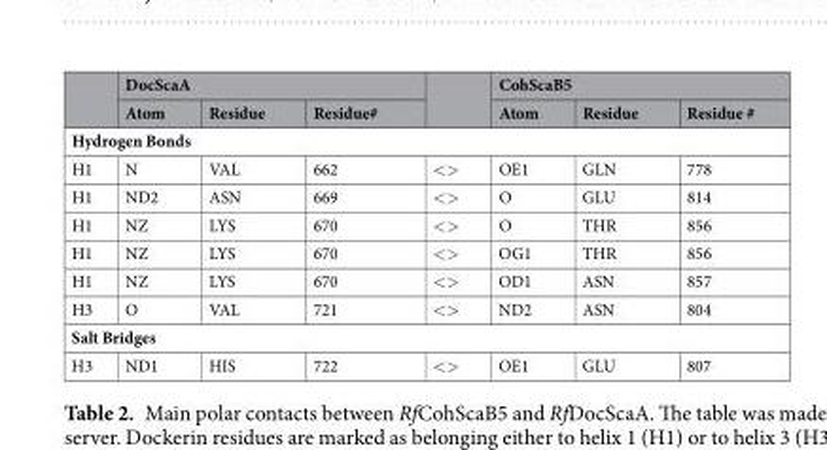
<table><thead><tr><td rowspan="2"></td><td colspan="3">DocScaA</td><td rowspan="2"></td><td colspan="3">CohScaB5</td></tr><tr><td>Atom</td><td>Residue</td><td>Residue#</td><td>Atom</td><td>Residue</td><td>Residue #</td></tr></thead><tbody><tr><td colspan="8">Hydrogen Bonds</td></tr><tr><td>H1</td><td>N</td><td>VAL</td><td>662</td><td>&lt;&gt;</td><td>OE1</td><td>GLN</td><td>778</td></tr><tr><td>H1</td><td>ND2</td><td>ASN</td><td>669</td><td>&lt;&gt;</td><td>O</td><td>GLU</td><td>814</td></tr><tr><td>H1</td><td>NZ</td><td>LYS</td><td>670</td><td>&lt;&gt;</td><td>O</td><td>THR</td><td>856</td></tr><tr><td>H1</td><td>NZ</td><td>LYS</td><td>670</td><td>&lt;&gt;</td><td>OG1</td><td>THR</td><td>856</td></tr><tr><td>H1</td><td>NZ</td><td>LYS</td><td>670</td><td>&lt;&gt;</td><td>OD1</td><td>ASN</td><td>857</td></tr><tr><td>H3</td><td>O</td><td>VAL</td><td>721</td><td>&lt;&gt;</td><td>ND2</td><td>ASN</td><td>804</td></tr><tr><td colspan="8">Salt Bridges</td></tr><tr><td>H3</td><td>ND1</td><td>HIS</td><td>722</td><td>&lt;&gt;</td><td>OE1</td><td>GLU</td><td>807</td></tr></tbody></table>